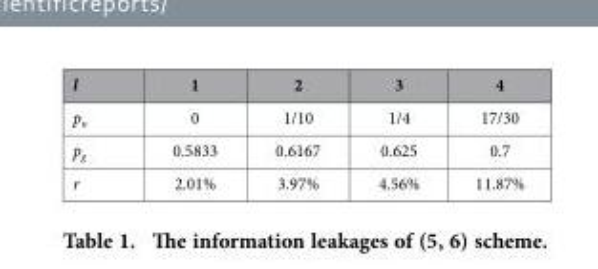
<table><thead><tr><td>l</td><td>1</td><td>2</td><td>3</td><td>4</td></tr></thead><tbody><tr><td>p<sub>u</sub></td><td>0</td><td>1/10</td><td>1/4</td><td>17/30</td></tr><tr><td>p<sub>g</sub></td><td>0.5833</td><td>0.6167</td><td>0.625</td><td>0.7</td></tr><tr><td>r</td><td>2.01%</td><td>3.97%</td><td>4.56%</td><td>11.87%</td></tr></tbody></table>